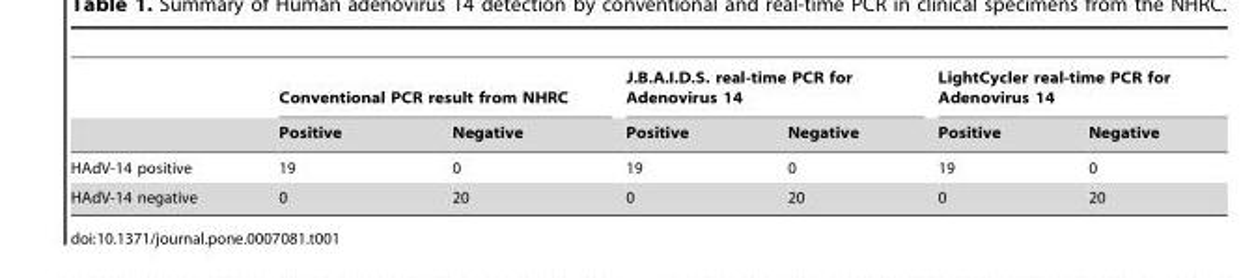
<table><thead><tr><td rowspan="2"></td><td colspan="2">Conventional PCR result from NHRC</td><td colspan="2">J.B.A.I.D.S. real-time PCR for Adenovirus 14</td><td colspan="2">LightCycler real-time PCR for Adenovirus 14</td></tr><tr><td>Positive</td><td>Negative</td><td>Positive</td><td>Negative</td><td>Positive</td><td>Negative</td></tr></thead><tbody><tr><td>HAdV-14 positive</td><td>19</td><td>0</td><td>19</td><td>0</td><td>19</td><td>0</td></tr><tr><td>HAdV-14 negative</td><td>0</td><td>20</td><td>0</td><td>20</td><td>0</td><td>20</td></tr></tbody></table>